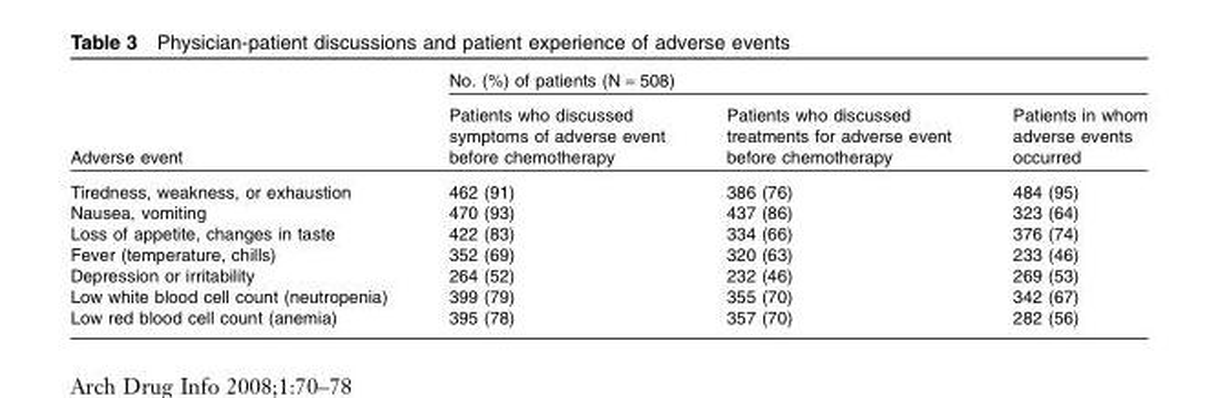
<table><thead><tr><td rowspan="2">Adverse event</td><td colspan="3">No. (%) of patients (N = 508)</td></tr><tr><td>Patients who discussed symptoms of adverse event before chemotherapy</td><td>Patients who discussed treatments for adverse event before chemotherapy</td><td>Patients in whom adverse events occurred</td></tr></thead><tbody><tr><td>Tiredness, weakness, or exhaustion</td><td>462 (91)</td><td>386 (76)</td><td>484 (95)</td></tr><tr><td>Nausea, vomiting</td><td>470 (93)</td><td>437 (86)</td><td>323 (64)</td></tr><tr><td>Loss of appetite, changes in taste</td><td>422 (83)</td><td>334 (66)</td><td>376 (74)</td></tr><tr><td>Fever (temperature, chills)</td><td>352 (69)</td><td>320 (63)</td><td>233 (46)</td></tr><tr><td>Depression or irritability</td><td>264 (52)</td><td>232 (46)</td><td>269 (53)</td></tr><tr><td>Low white blood cell count (neutropenia)</td><td>399 (79)</td><td>355 (70)</td><td>342 (67)</td></tr><tr><td>Low red blood cell count (anemia)</td><td>395 (78)</td><td>357 (70)</td><td>282 (56)</td></tr></tbody></table>